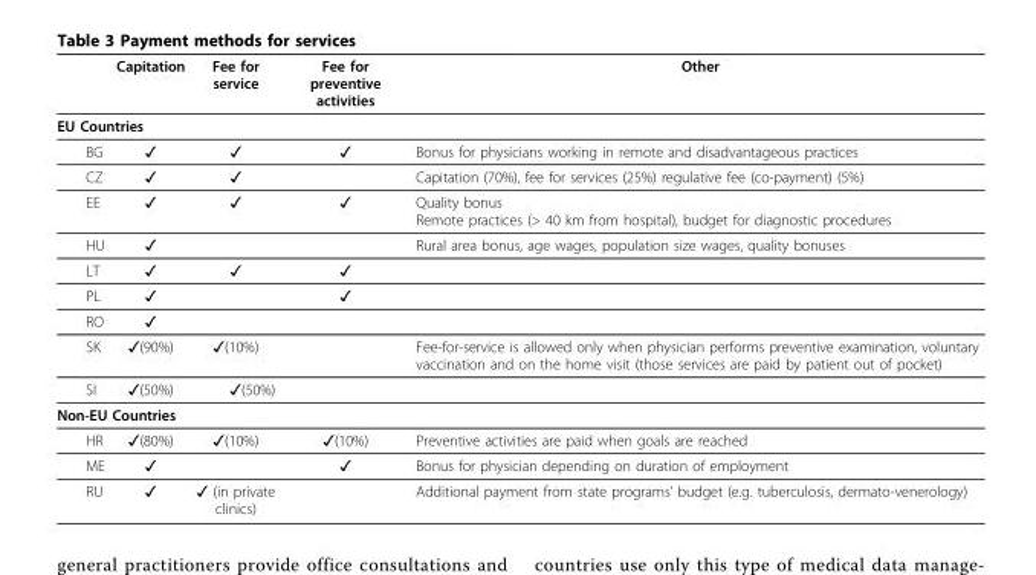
<table><thead><tr><td></td><td>Capitation</td><td>Fee for service</td><td>Fee for preventive activities</td><td>Other</td></tr></thead><tbody><tr><td colspan="5">EU Countries</td></tr><tr><td>BG</td><td>✓</td><td>✓</td><td>✓</td><td>Bonus for physicians working in remote and disadvantageous practices</td></tr><tr><td>CZ</td><td>✓</td><td>✓</td><td></td><td>Capitation (70%), fee for services (25%) regulative fee (co-payment) (5%)</td></tr><tr><td>EE</td><td>✓</td><td>✓</td><td>✓</td><td>Quality bonus Remote practices (&gt; 40 km from hospital), budget for diagnostic procedures</td></tr><tr><td>HU</td><td>✓</td><td></td><td></td><td>Rural area bonus, age wages, population size wages, quality bonuses</td></tr><tr><td>LT</td><td>✓</td><td>✓</td><td>✓</td><td></td></tr><tr><td>PL</td><td>✓</td><td></td><td>✓</td><td></td></tr><tr><td>RO</td><td>✓</td><td></td><td></td><td></td></tr><tr><td>SK</td><td>✓(90%)</td><td>✓(10%)</td><td></td><td>Fee-for-service is allowed only when physician performs preventive examination, voluntary vaccination and on the home visit (those services are paid by patient out of pocket)</td></tr><tr><td>SI</td><td>✓(50%)</td><td>✓(50%)</td><td></td><td></td></tr><tr><td colspan="5">Non-EU Countries</td></tr><tr><td>HR</td><td>✓(80%)</td><td>✓(10%)</td><td>✓(10%)</td><td>Preventive activities are paid when goals are reached</td></tr><tr><td>ME</td><td>✓</td><td></td><td>✓</td><td>Bonus for physician depending on duration of employment</td></tr><tr><td>RU</td><td>✓</td><td>✓ (in private clinics)</td><td></td><td>Additional payment from state programs’ budget (e.g. tuberculosis, dermato-venerology)</td></tr></tbody></table>